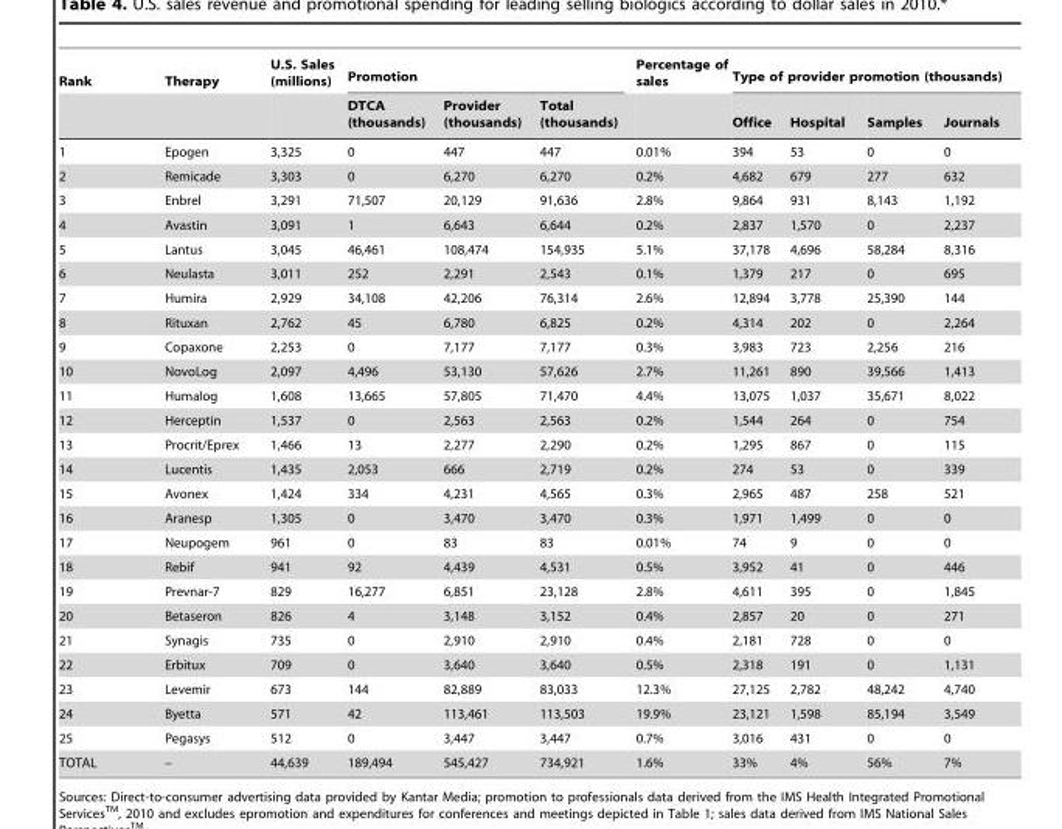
<table><thead><tr><td rowspan="2">Rank</td><td rowspan="2">Therapy</td><td rowspan="2">U.S. Sales (millions)</td><td colspan="3">Promotion</td><td rowspan="2">Percentage of sales</td><td colspan="4">Type of provider promotion (thousands)</td></tr><tr><td>DTCA (thousands)</td><td>Provider (thousands)</td><td>Total (thousands)</td><td>Office</td><td>Hospital</td><td>Samples</td><td>Journals</td></tr></thead><tbody><tr><td>1</td><td>Epogen</td><td>3,325</td><td>0</td><td>447</td><td>447</td><td>0.01%</td><td>394</td><td>53</td><td>0</td><td>0</td></tr><tr><td>2</td><td>Remicade</td><td>3,303</td><td>0</td><td>6,270</td><td>6,270</td><td>0.2%</td><td>4,682</td><td>679</td><td>277</td><td>632</td></tr><tr><td>3</td><td>Enbrel</td><td>3,291</td><td>71,507</td><td>20,129</td><td>91,636</td><td>2.8%</td><td>9,864</td><td>931</td><td>8,143</td><td>1,192</td></tr><tr><td>4</td><td>Avastin</td><td>3,091</td><td>1</td><td>6,643</td><td>6,644</td><td>0.2%</td><td>2,837</td><td>1,570</td><td>0</td><td>2,237</td></tr><tr><td>5</td><td>Lantus</td><td>3,045</td><td>46,461</td><td>108,474</td><td>154,935</td><td>5.1%</td><td>37,178</td><td>4,696</td><td>58,284</td><td>8,316</td></tr><tr><td>6</td><td>Neulasta</td><td>3,011</td><td>252</td><td>2,291</td><td>2,543</td><td>0.1%</td><td>1,379</td><td>217</td><td>0</td><td>695</td></tr><tr><td>7</td><td>Humira</td><td>2,929</td><td>34,108</td><td>42,206</td><td>76,314</td><td>2.6%</td><td>12,894</td><td>3,778</td><td>25,390</td><td>144</td></tr><tr><td>8</td><td>Rituxan</td><td>2,762</td><td>45</td><td>6,780</td><td>6,825</td><td>0.2%</td><td>4,314</td><td>202</td><td>0</td><td>2,264</td></tr><tr><td>9</td><td>Copaxone</td><td>2,253</td><td>0</td><td>7,177</td><td>7,177</td><td>0.3%</td><td>3,983</td><td>723</td><td>2,256</td><td>216</td></tr><tr><td>10</td><td>NovoLog</td><td>2,097</td><td>4,496</td><td>53,130</td><td>57,626</td><td>2.7%</td><td>11,261</td><td>890</td><td>39,566</td><td>1,413</td></tr><tr><td>11</td><td>Humalog</td><td>1,608</td><td>13,665</td><td>57,805</td><td>71,470</td><td>4.4%</td><td>13,075</td><td>1,037</td><td>35,671</td><td>8,022</td></tr><tr><td>12</td><td>Herceptin</td><td>1,537</td><td>0</td><td>2,563</td><td>2,563</td><td>0.2%</td><td>1,544</td><td>264</td><td>0</td><td>754</td></tr><tr><td>13</td><td>Procrit/Eprex</td><td>1,466</td><td>13</td><td>2,277</td><td>2,290</td><td>0.2%</td><td>1,295</td><td>867</td><td>0</td><td>115</td></tr><tr><td>14</td><td>Lucentis</td><td>1,435</td><td>2,053</td><td>666</td><td>2,719</td><td>0.2%</td><td>274</td><td>53</td><td>0</td><td>339</td></tr><tr><td>15</td><td>Avonex</td><td>1,424</td><td>334</td><td>4,231</td><td>4,565</td><td>0.3%</td><td>2,965</td><td>487</td><td>258</td><td>521</td></tr><tr><td>16</td><td>Aranesp</td><td>1,305</td><td>0</td><td>3,470</td><td>3,470</td><td>0.3%</td><td>1,971</td><td>1,499</td><td>0</td><td>0</td></tr><tr><td>17</td><td>Neupogem</td><td>961</td><td>0</td><td>83</td><td>83</td><td>0.01%</td><td>74</td><td>9</td><td>0</td><td>0</td></tr><tr><td>18</td><td>Rebif</td><td>941</td><td>92</td><td>4,439</td><td>4,531</td><td>0.5%</td><td>3,952</td><td>41</td><td>0</td><td>446</td></tr><tr><td>19</td><td>Prevnar-7</td><td>829</td><td>16,277</td><td>6,851</td><td>23,128</td><td>2.8%</td><td>4,611</td><td>395</td><td>0</td><td>1,845</td></tr><tr><td>20</td><td>Betaseron</td><td>826</td><td>4</td><td>3,148</td><td>3,152</td><td>0.4%</td><td>2,857</td><td>20</td><td>0</td><td>271</td></tr><tr><td>21</td><td>Synagis</td><td>735</td><td>0</td><td>2,910</td><td>2,910</td><td>0.4%</td><td>2,181</td><td>728</td><td>0</td><td>0</td></tr><tr><td>22</td><td>Erbitux</td><td>709</td><td>0</td><td>3,640</td><td>3,640</td><td>0.5%</td><td>2,318</td><td>191</td><td>0</td><td>1,131</td></tr><tr><td>23</td><td>Levemir</td><td>673</td><td>144</td><td>82,889</td><td>83,033</td><td>12.3%</td><td>27,125</td><td>2,782</td><td>48,242</td><td>4,740</td></tr><tr><td>24</td><td>Byetta</td><td>571</td><td>42</td><td>113,461</td><td>113,503</td><td>19.9%</td><td>23,121</td><td>1,598</td><td>85,194</td><td>3,549</td></tr><tr><td>25</td><td>Pegasys</td><td>512</td><td>0</td><td>3,447</td><td>3,447</td><td>0.7%</td><td>3,016</td><td>431</td><td>0</td><td>0</td></tr><tr><td>TOTAL</td><td>–</td><td>44,639</td><td>189,494</td><td>545,427</td><td>734,921</td><td>1.6%</td><td>33%</td><td>4%</td><td>56%</td><td>7%</td></tr></tbody></table>